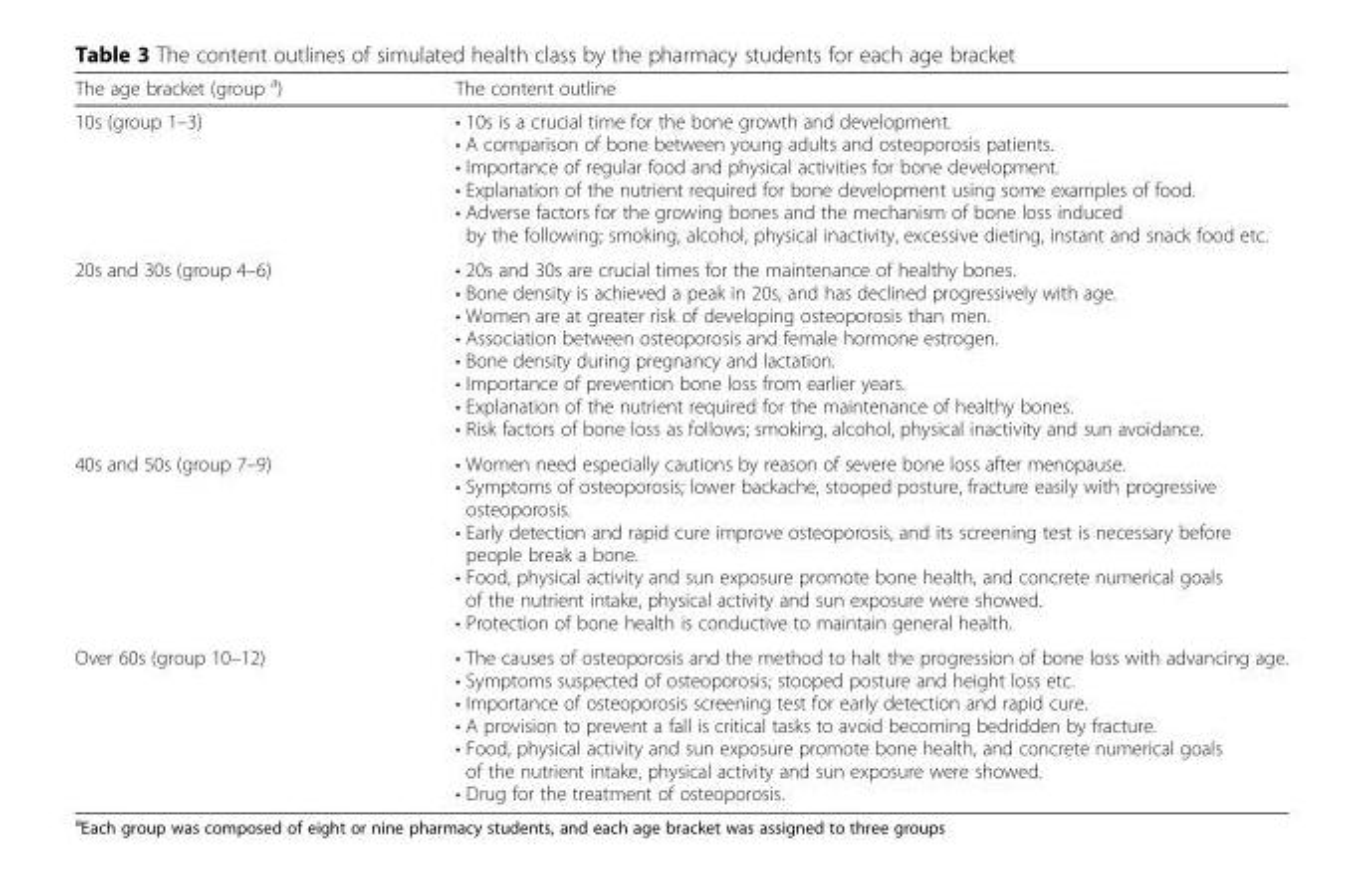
<table><thead><tr><td>The age bracket (group <sup>a</sup>)</td><td>The content outline</td></tr></thead><tbody><tr><td>10s (group 1–3)</td><td>• 10s is a crucial time for the bone growth and development. • A comparison of bone between young adults and osteoporosis patients. • Importance of regular food and physical activities for bone development. • Explanation of the nutrient required for bone development using some examples of food. • Adverse factors for the growing bones and the mechanism of bone loss induced by the following; smoking, alcohol, physical inactivity, excessive dieting, instant and snack food etc.</td></tr><tr><td>20s and 30s (group 4–6)</td><td>• 20s and 30s are crucial times for the maintenance of healthy bones. • Bone density is achieved a peak in 20s, and has declined progressively with age. • Women are at greater risk of developing osteoporosis than men. • Association between osteoporosis and female hormone estrogen. • Bone density during pregnancy and lactation. • Importance of prevention bone loss from earlier years. • Explanation of the nutrient required for the maintenance of healthy bones. • Risk factors of bone loss as follows; smoking, alcohol, physical inactivity and sun avoidance.</td></tr><tr><td>40s and 50s (group 7–9)</td><td>• Women need especially cautions by reason of severe bone loss after menopause. • Symptoms of osteoporosis; lower backache, stooped posture, fracture easily with progressive osteoporosis. • Early detection and rapid cure improve osteoporosis, and its screening test is necessary before people break a bone. • Food, physical activity and sun exposure promote bone health, and concrete numerical goals of the nutrient intake, physical activity and sun exposure were showed. • Protection of bone health is conductive to maintain general health.</td></tr><tr><td>Over 60s (group 10–12)</td><td>• The causes of osteoporosis and the method to halt the progression of bone loss with advancing age. • Symptoms suspected of osteoporosis; stooped posture and height loss etc. • Importance of osteoporosis screening test for early detection and rapid cure. • A provision to prevent a fall is critical tasks to avoid becoming bedridden by fracture. • Food, physical activity and sun exposure promote bone health, and concrete numerical goals of the nutrient intake, physical activity and sun exposure were showed. • Drug for the treatment of osteoporosis.</td></tr></tbody></table>